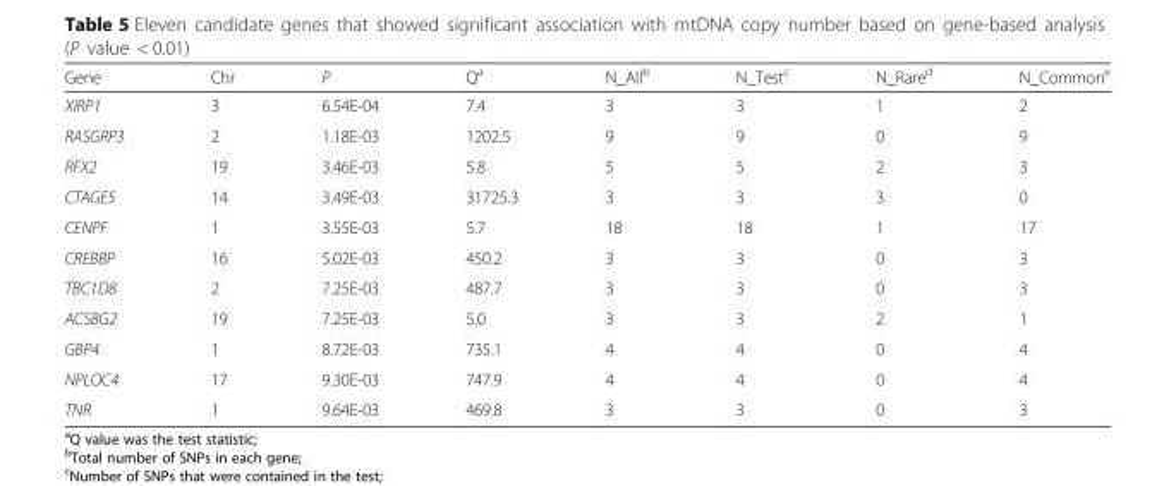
<table><thead><tr><td>Gene</td><td>Chr</td><td>P</td><td>Q<sup>a</sup></td><td>N_All<sup>b</sup></td><td>N_Test<sup>c</sup></td><td>N_Rare<sup>d</sup></td><td>N_Common<sup>e</sup></td></tr></thead><tbody><tr><td>XIRP1</td><td>3</td><td>6.54E-04</td><td>7.4</td><td>3</td><td>3</td><td>1</td><td>2</td></tr><tr><td>RASGRP3</td><td>2</td><td>1.18E-03</td><td>1202.5</td><td>9</td><td>9</td><td>0</td><td>9</td></tr><tr><td>RFX2</td><td>19</td><td>3.46E-03</td><td>5.8</td><td>5</td><td>5</td><td>2</td><td>3</td></tr><tr><td>CTAGE5</td><td>14</td><td>3.49E-03</td><td>31725.3</td><td>3</td><td>3</td><td>3</td><td>0</td></tr><tr><td>CENPF</td><td>1</td><td>3.55E-03</td><td>5.7</td><td>18</td><td>18</td><td>1</td><td>17</td></tr><tr><td>CREBBP</td><td>16</td><td>5.02E-03</td><td>450.2</td><td>3</td><td>3</td><td>0</td><td>3</td></tr><tr><td>TBC1D8</td><td>2</td><td>7.25E-03</td><td>487.7</td><td>3</td><td>3</td><td>0</td><td>3</td></tr><tr><td>ACSBG2</td><td>19</td><td>7.25E-03</td><td>5.0</td><td>3</td><td>3</td><td>2</td><td>1</td></tr><tr><td>GBP4</td><td>1</td><td>8.72E-03</td><td>735.1</td><td>4</td><td>4</td><td>0</td><td>4</td></tr><tr><td>NPLOC4</td><td>17</td><td>9.30E-03</td><td>747.9</td><td>4</td><td>4</td><td>0</td><td>4</td></tr><tr><td>TNR</td><td>1</td><td>9.64E-03</td><td>469.8</td><td>3</td><td>3</td><td>0</td><td>3</td></tr></tbody></table>